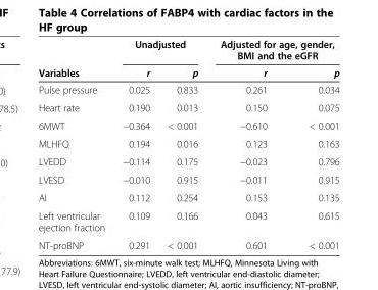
<table><thead><tr><td rowspan="2">Variables</td><td colspan="2">Unadjusted</td><td colspan="2">Adjusted for age, gender, BMI and the eGFR</td></tr><tr><td>r</td><td>p</td><td>r</td><td>p</td></tr></thead><tbody><tr><td>Pulse pressure</td><td>0.025</td><td>0.833</td><td>0.261</td><td>0.034</td></tr><tr><td>Heart rate</td><td>0.190</td><td>0.013</td><td>0.150</td><td>0.075</td></tr><tr><td>6MWT</td><td>−0.364</td><td>&lt; 0.001</td><td>−0.610</td><td>&lt; 0.001</td></tr><tr><td>MLHFQ</td><td>0.194</td><td>0.016</td><td>0.123</td><td>0.163</td></tr><tr><td>LVEDD</td><td>−0.114</td><td>0.175</td><td>−0.023</td><td>0.796</td></tr><tr><td>LVESD</td><td>−0.010</td><td>0.915</td><td>−0.011</td><td>0.915</td></tr><tr><td>AI</td><td>0.112</td><td>0.254</td><td>0.153</td><td>0.135</td></tr><tr><td>Left ventricular ejection fraction</td><td>0.109</td><td>0.166</td><td>0.043</td><td>0.615</td></tr><tr><td>NT-proBNP</td><td>0.291</td><td>&lt; 0.001</td><td>0.601</td><td>&lt; 0.001</td></tr></tbody></table>